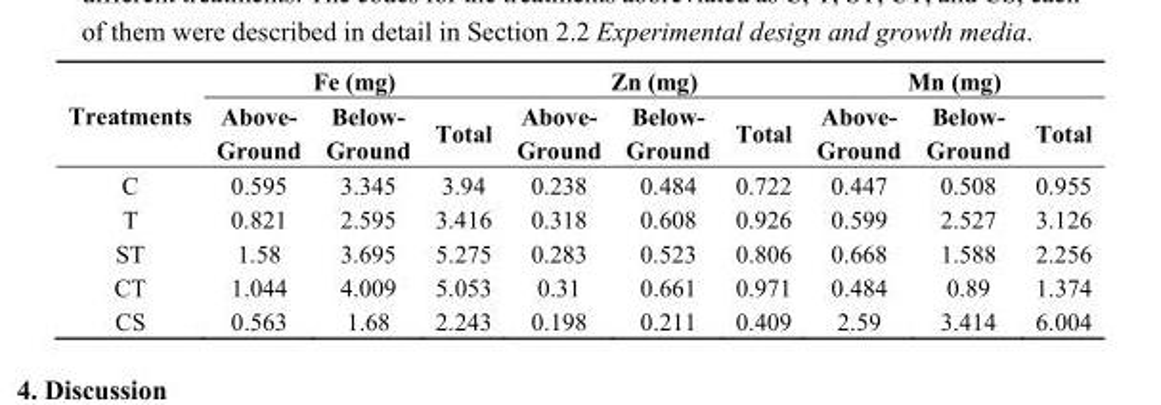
<table><thead><tr><td rowspan="2">Treatments</td><td colspan="3">Fe (mg)</td><td colspan="3">Zn (mg)</td><td colspan="3">Mn (mg)</td></tr><tr><td>Above- Ground</td><td>Below- Ground</td><td>Total</td><td>Above- Ground</td><td>Below- Ground</td><td>Total</td><td>Above- Ground</td><td>Below- Ground</td><td>Total</td></tr></thead><tbody><tr><td>C</td><td>0.595</td><td>3.345</td><td>3.94</td><td>0.238</td><td>0.484</td><td>0.722</td><td>0.447</td><td>0.508</td><td>0.955</td></tr><tr><td>T</td><td>0.821</td><td>2.595</td><td>3.416</td><td>0.318</td><td>0.608</td><td>0.926</td><td>0.599</td><td>2.527</td><td>3.126</td></tr><tr><td>ST</td><td>1.58</td><td>3.695</td><td>5.275</td><td>0.283</td><td>0.523</td><td>0.806</td><td>0.668</td><td>1.588</td><td>2.256</td></tr><tr><td>CT</td><td>1.044</td><td>4.009</td><td>5.053</td><td>0.31</td><td>0.661</td><td>0.971</td><td>0.484</td><td>0.89</td><td>1.374</td></tr><tr><td>CS</td><td>0.563</td><td>1.68</td><td>2.243</td><td>0.198</td><td>0.211</td><td>0.409</td><td>2.59</td><td>3.414</td><td>6.004</td></tr></tbody></table>